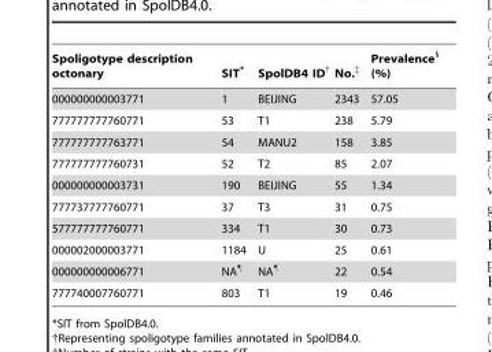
<table><thead><tr><td>Spoligotype description octonary</td><td>SIT*</td><td>SpolDB4 ID†</td><td>No.‡</td><td>Prevalence§ (%)</td></tr></thead><tbody><tr><td>000000000003771</td><td>1</td><td>BEIJING</td><td>2343</td><td>57.05</td></tr><tr><td>777777777760771</td><td>53</td><td>T1</td><td>238</td><td>5.79</td></tr><tr><td>777777777763771</td><td>54</td><td>MANU2</td><td>158</td><td>3.85</td></tr><tr><td>777777777760731</td><td>52</td><td>T2</td><td>85</td><td>2.07</td></tr><tr><td>000000000003731</td><td>190</td><td>BEIJING</td><td>55</td><td>1.34</td></tr><tr><td>777737777760771</td><td>37</td><td>T3</td><td>31</td><td>0.75</td></tr><tr><td>577777777760771</td><td>334</td><td>T1</td><td>30</td><td>0.73</td></tr><tr><td>000002000003771</td><td>1184</td><td>U</td><td>25</td><td>0.61</td></tr><tr><td>000000000006771</td><td>NA¶</td><td>NA¶</td><td>22</td><td>0.54</td></tr><tr><td>777740007760771</td><td>803</td><td>T1</td><td>19</td><td>0.46</td></tr></tbody></table>